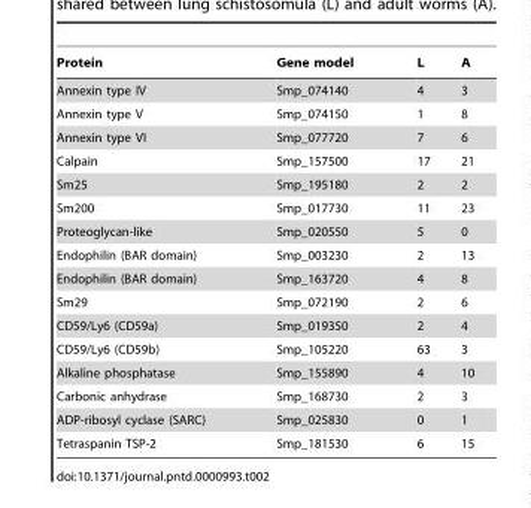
<table><thead><tr><td>Protein</td><td>Gene model</td><td>L</td><td>A</td></tr></thead><tbody><tr><td>Annexin type IV</td><td>Smp_074140</td><td>4</td><td>3</td></tr><tr><td>Annexin type V</td><td>Smp_074150</td><td>1</td><td>8</td></tr><tr><td>Annexin type VI</td><td>Smp_077720</td><td>7</td><td>6</td></tr><tr><td>Calpain</td><td>Smp_157500</td><td>17</td><td>21</td></tr><tr><td>Sm25</td><td>Smp_195180</td><td>2</td><td>2</td></tr><tr><td>Sm200</td><td>Smp_017730</td><td>11</td><td>23</td></tr><tr><td>Proteoglycan-like</td><td>Smp_020550</td><td>5</td><td>0</td></tr><tr><td>Endophilin (BAR domain)</td><td>Smp_003230</td><td>2</td><td>13</td></tr><tr><td>Endophilin (BAR domain)</td><td>Smp_163720</td><td>4</td><td>8</td></tr><tr><td>Sm29</td><td>Smp_072190</td><td>2</td><td>6</td></tr><tr><td>CD59/Ly6 (CD59a)</td><td>Smp_019350</td><td>2</td><td>4</td></tr><tr><td>CD59/Ly6 (CD59b)</td><td>Smp_105220</td><td>63</td><td>3</td></tr><tr><td>Alkaline phosphatase</td><td>Smp_155890</td><td>4</td><td>10</td></tr><tr><td>Carbonic anhydrase</td><td>Smp_168730</td><td>2</td><td>3</td></tr><tr><td>ADP-ribosyl cyclase (SARC)</td><td>Smp_025830</td><td>0</td><td>1</td></tr><tr><td>Tetraspanin TSP-2</td><td>Smp_181530</td><td>6</td><td>15</td></tr></tbody></table>